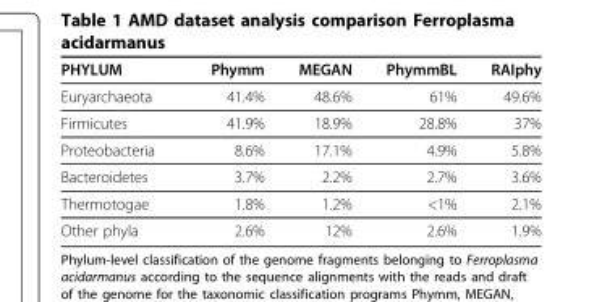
<table><thead><tr><td>PHYLUM</td><td>Phymm</td><td>MEGAN</td><td>PhymmBL</td><td>RAIphy</td></tr></thead><tbody><tr><td>Euryarchaeota</td><td>41.4%</td><td>48.6%</td><td>61%</td><td>49.6%</td></tr><tr><td>Firmicutes</td><td>41.9%</td><td>18.9%</td><td>28.8%</td><td>37%</td></tr><tr><td>Proteobacteria</td><td>8.6%</td><td>17.1%</td><td>4.9%</td><td>5.8%</td></tr><tr><td>Bacteroidetes</td><td>3.7%</td><td>2.2%</td><td>2.7%</td><td>3.6%</td></tr><tr><td>Thermotogae</td><td>1.8%</td><td>1.2%</td><td>&lt;1%</td><td>2.1%</td></tr><tr><td>Other phyla</td><td>2.6%</td><td>12%</td><td>2.6%</td><td>1.9%</td></tr></tbody></table>